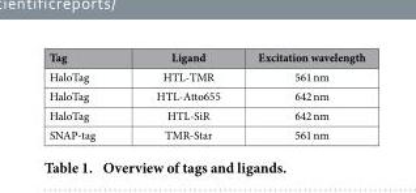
<table><thead><tr><td>Tag</td><td>Ligand</td><td>Excitation wavelength</td></tr></thead><tbody><tr><td>HaloTag</td><td>HTL-TMR</td><td>561 nm</td></tr><tr><td>HaloTag</td><td>HTL-Atto655</td><td>642 nm</td></tr><tr><td>HaloTag</td><td>HTL-SiR</td><td>642 nm</td></tr><tr><td>SNAP-tag</td><td>TMR-Star</td><td>561 nm</td></tr></tbody></table>